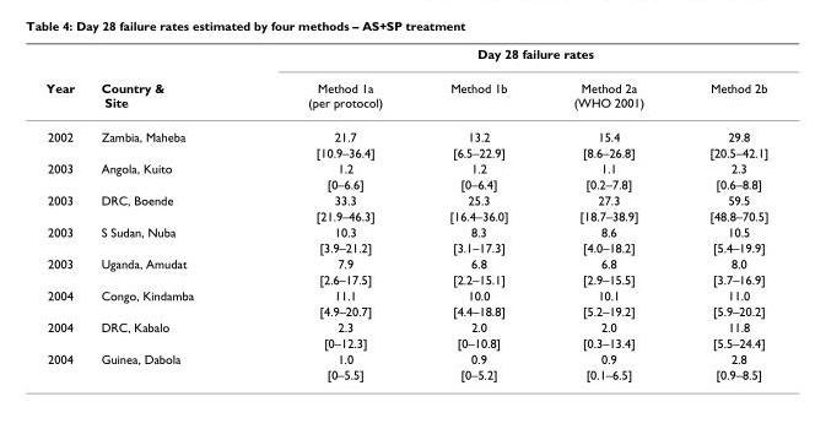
<table><thead><tr><td rowspan="2">Year</td><td rowspan="2">Country &amp; Site</td><td colspan="4">Day 28 failure rates</td></tr><tr><td>Method 1a (per protocol)</td><td>Method 1b</td><td>Method 2a (WHO 2001)</td><td>Method 2b</td></tr></thead><tbody><tr><td rowspan="2">2002</td><td>Zambia, Maheba</td><td>21.7</td><td>13.2</td><td>15.4</td><td>29.8</td></tr><tr><td></td><td>[10.9–36.4]</td><td>[6.5–22.9]</td><td>[8.6–26.8]</td><td>[20.5–42.1]</td></tr><tr><td rowspan="2">2003</td><td>Angola, Kuito</td><td>1.2</td><td>1.2</td><td>1.1</td><td>2.3</td></tr><tr><td></td><td>[0–6.6]</td><td>[0–6.4]</td><td>[0.2–7.8]</td><td>[0.6–8.8]</td></tr><tr><td rowspan="2">2003</td><td>DRC, Boende</td><td>33.3</td><td>25.3</td><td>27.3</td><td>59.5</td></tr><tr><td></td><td>[21.9–46.3]</td><td>[16.4–36.0]</td><td>[18.7–38.9]</td><td>[48.8–70.5]</td></tr><tr><td rowspan="2">2003</td><td>S Sudan, Nuba</td><td>10.3</td><td>8.3</td><td>8.6</td><td>10.5</td></tr><tr><td></td><td>[3.9–21.2]</td><td>[3.1–17.3]</td><td>[4.0–18.2]</td><td>[5.4–19.9]</td></tr><tr><td rowspan="2">2003</td><td>Uganda, Amudat</td><td>7.9</td><td>6.8</td><td>6.8</td><td>8.0</td></tr><tr><td></td><td>[2.6–17.5]</td><td>[2.2–15.1]</td><td>[2.9–15.5]</td><td>[3.7–16.9]</td></tr><tr><td rowspan="2">2004</td><td>Congo, Kindamba</td><td>11.1</td><td>10.0</td><td>10.1</td><td>11.0</td></tr><tr><td></td><td>[4.9–20.7]</td><td>[4.4–18.8]</td><td>[5.2–19.2]</td><td>[5.9–20.2]</td></tr><tr><td rowspan="2">2004</td><td>DRC, Kabalo</td><td>2.3</td><td>2.0</td><td>2.0</td><td>11.8</td></tr><tr><td></td><td>[0–12.3]</td><td>[0–10.8]</td><td>[0.3–13.4]</td><td>[5.5–24.4]</td></tr><tr><td rowspan="2">2004</td><td>Guinea, Dabola</td><td>1.0</td><td>0.9</td><td>0.9</td><td>2.8</td></tr><tr><td></td><td>[0–5.5]</td><td>[0–5.2]</td><td>[0.1–6.5]</td><td>[0.9–8.5]</td></tr></tbody></table>